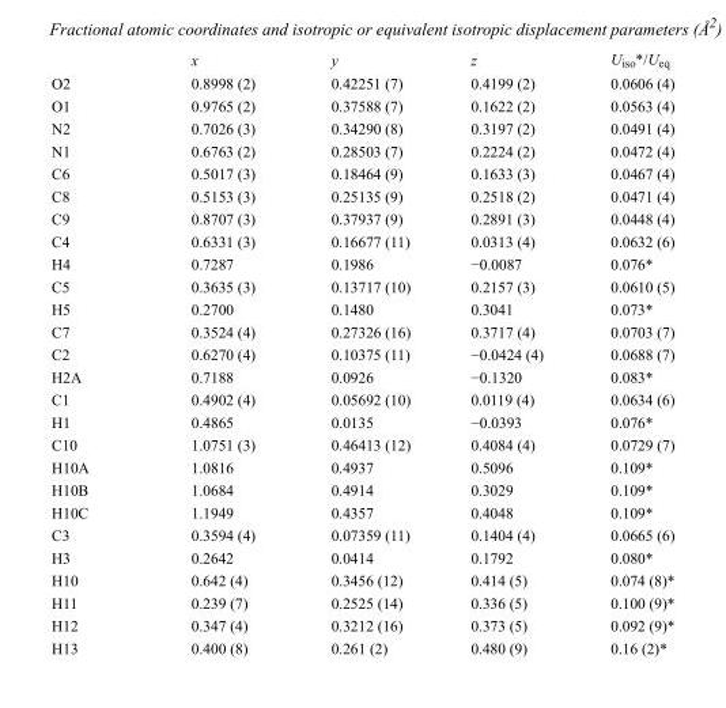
<table><thead><tr><td></td><td>x</td><td>y</td><td>z</td><td>U<sub>iso</sub>*/U<sub>eq</sub></td></tr></thead><tbody><tr><td>O2</td><td>0.8998 (2)</td><td>0.42251 (7)</td><td>0.4199 (2)</td><td>0.0606 (4)</td></tr><tr><td>O1</td><td>0.9765 (2)</td><td>0.37588 (7)</td><td>0.1622 (2)</td><td>0.0563 (4)</td></tr><tr><td>N2</td><td>0.7026 (3)</td><td>0.34290 (8)</td><td>0.3197 (2)</td><td>0.0491 (4)</td></tr><tr><td>N1</td><td>0.6763 (2)</td><td>0.28503 (7)</td><td>0.2224 (2)</td><td>0.0472 (4)</td></tr><tr><td>C6</td><td>0.5017 (3)</td><td>0.18464 (9)</td><td>0.1633 (3)</td><td>0.0467 (4)</td></tr><tr><td>C8</td><td>0.5153 (3)</td><td>0.25135 (9)</td><td>0.2518 (2)</td><td>0.0471 (4)</td></tr><tr><td>C9</td><td>0.8707 (3)</td><td>0.37937 (9)</td><td>0.2891 (3)</td><td>0.0448 (4)</td></tr><tr><td>C4</td><td>0.6331 (3)</td><td>0.16677 (11)</td><td>0.0313 (4)</td><td>0.0632 (6)</td></tr><tr><td>H4</td><td>0.7287</td><td>0.1986</td><td>−0.0087</td><td>0.076*</td></tr><tr><td>C5</td><td>0.3635 (3)</td><td>0.13717 (10)</td><td>0.2157 (3)</td><td>0.0610 (5)</td></tr><tr><td>H5</td><td>0.2700</td><td>0.1480</td><td>0.3041</td><td>0.073*</td></tr><tr><td>C7</td><td>0.3524 (4)</td><td>0.27326 (16)</td><td>0.3717 (4)</td><td>0.0703 (7)</td></tr><tr><td>C2</td><td>0.6270 (4)</td><td>0.10375 (11)</td><td>−0.0424 (4)</td><td>0.0688 (7)</td></tr><tr><td>H2A</td><td>0.7188</td><td>0.0926</td><td>−0.1320</td><td>0.083*</td></tr><tr><td>C1</td><td>0.4902 (4)</td><td>0.05692 (10)</td><td>0.0119 (4)</td><td>0.0634 (6)</td></tr><tr><td>H1</td><td>0.4865</td><td>0.0135</td><td>−0.0393</td><td>0.076*</td></tr><tr><td>C10</td><td>1.0751 (3)</td><td>0.46413 (12)</td><td>0.4084 (4)</td><td>0.0729 (7)</td></tr><tr><td>H10A</td><td>1.0816</td><td>0.4937</td><td>0.5096</td><td>0.109*</td></tr><tr><td>H10B</td><td>1.0684</td><td>0.4914</td><td>0.3029</td><td>0.109*</td></tr><tr><td>H10C</td><td>1.1949</td><td>0.4357</td><td>0.4048</td><td>0.109*</td></tr><tr><td>C3</td><td>0.3594 (4)</td><td>0.07359 (11)</td><td>0.1404 (4)</td><td>0.0665 (6)</td></tr><tr><td>H3</td><td>0.2642</td><td>0.0414</td><td>0.1792</td><td>0.080*</td></tr><tr><td>H10</td><td>0.642 (4)</td><td>0.3456 (12)</td><td>0.414 (5)</td><td>0.074 (8)*</td></tr><tr><td>H11</td><td>0.239 (7)</td><td>0.2525 (14)</td><td>0.336 (5)</td><td>0.100 (9)*</td></tr><tr><td>H12</td><td>0.347 (4)</td><td>0.3212 (16)</td><td>0.373 (5)</td><td>0.092 (9)*</td></tr><tr><td>H13</td><td>0.400 (8)</td><td>0.261 (2)</td><td>0.480 (9)</td><td>0.16 (2)*</td></tr></tbody></table>